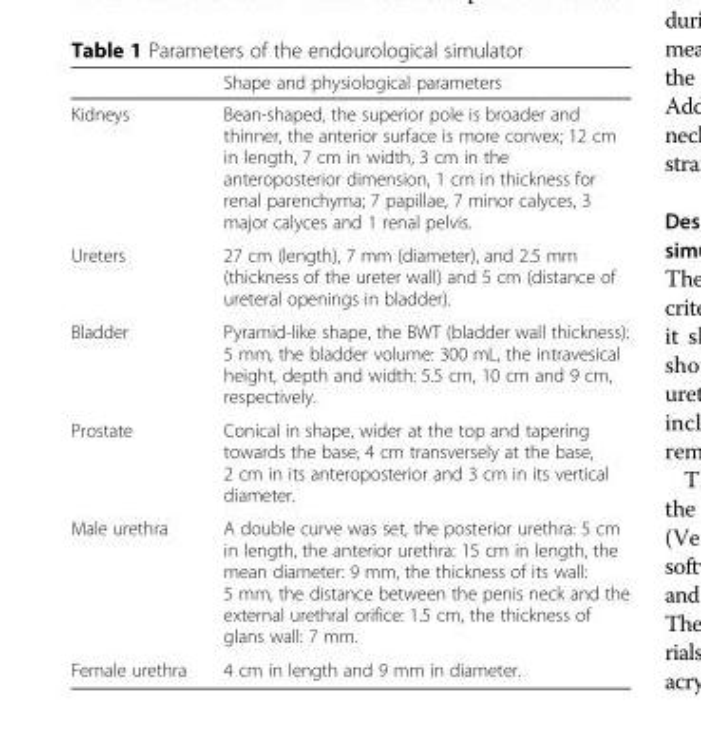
<table><thead><tr><td></td><td>Shape and physiological parameters</td></tr></thead><tbody><tr><td>Kidneys</td><td>Bean-shaped, the superior pole is broader and thinner, the anterior surface is more convex; 12 cm in length, 7 cm in width, 3 cm in the anteroposterior dimension, 1 cm in thickness for renal parenchyma; 7 papillae, 7 minor calyces, 3 major calyces and 1 renal pelvis.</td></tr><tr><td>Ureters</td><td>27 cm (length), 7 mm (diameter), and 2.5 mm (thickness of the ureter wall) and 5 cm (distance of ureteral openings in bladder).</td></tr><tr><td>Bladder</td><td>Pyramid-like shape, the BWT (bladder wall thickness): 5 mm, the bladder volume: 300 mL, the intravesical height, depth and width: 5.5 cm, 10 cm and 9 cm, respectively.</td></tr><tr><td>Prostate</td><td>Conical in shape, wider at the top and tapering towards the base, 4 cm transversely at the base, 2 cm in its anteroposterior and 3 cm in its vertical diameter.</td></tr><tr><td>Male urethra</td><td>A double curve was set, the posterior urethra: 5 cm in length, the anterior urethra: 15 cm in length, the mean diameter: 9 mm, the thickness of its wall: 5 mm, the distance between the penis neck and the external urethral orifice: 1.5 cm, the thickness of glans wall: 7 mm.</td></tr><tr><td>Female urethra</td><td>4 cm in length and 9 mm in diameter.</td></tr></tbody></table>